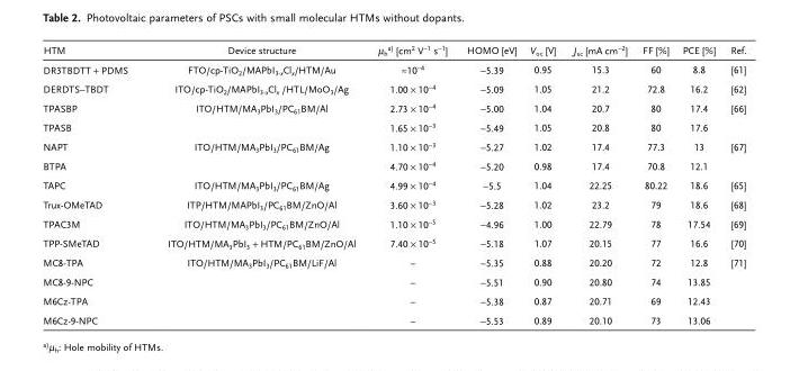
<table><thead><tr><td>HTM</td><td>Device structure</td><td>µ<sub>h</sub>a) [cm<sup>2</sup> V<sup>−1</sup> s<sup>−1</sup>]</td><td>HOMO [eV]</td><td>V<sub>oc</sub> [V]</td><td>J<sub>sc</sub> [mA cm<sup>−2</sup>]</td><td>FF [%]</td><td>PCE [%]</td><td>Ref.</td></tr></thead><tbody><tr><td>DR3TBDTT + PDMS</td><td>FTO/cp-TiO<sub>2</sub>/MAPbI<sub>3-x</sub>Cl<sub>x</sub>/HTM/Au</td><td>≈10<sup>−4</sup></td><td>−5.39</td><td>0.95</td><td>15.3</td><td>60</td><td>8.8</td><td>[61]</td></tr><tr><td>DERDTS–TBDT</td><td>ITO/cp-TiO<sub>2</sub>/MAPbI<sub>3-x</sub>Cl<sub>x</sub> /HTL/MoO<sub>3</sub>/Ag</td><td>1.00 × 10<sup>−4</sup></td><td>−5.09</td><td>1.05</td><td>21.2</td><td>72.8</td><td>16.2</td><td>[62]</td></tr><tr><td>TPASBP</td><td>ITO/HTM/MA<sub>3</sub>PbI<sub>3</sub>/PC<sub>61</sub>BM/Al</td><td>2.73 × 10<sup>−4</sup></td><td>−5.00</td><td>1.04</td><td>20.7</td><td>80</td><td>17.4</td><td>[66]</td></tr><tr><td>TPASB</td><td></td><td>1.65 × 10<sup>−3</sup></td><td>−5.49</td><td>1.05</td><td>20.8</td><td>80</td><td>17.6</td><td></td></tr><tr><td>NAPT</td><td>ITO/HTM/MA<sub>3</sub>PbI<sub>3</sub>/PC<sub>61</sub>BM/Ag</td><td>1.10 × 10<sup>−3</sup></td><td>−5.27</td><td>1.02</td><td>17.4</td><td>77.3</td><td>13</td><td>[67]</td></tr><tr><td>BTPA</td><td></td><td>4.70 × 10<sup>−4</sup></td><td>−5.20</td><td>0.98</td><td>17.4</td><td>70.8</td><td>12.1</td><td></td></tr><tr><td>TAPC</td><td>ITO/HTM/MA<sub>3</sub>PbI<sub>3</sub>/PC<sub>61</sub>BM/Ag</td><td>4.99 × 10<sup>−4</sup></td><td>−5.5</td><td>1.04</td><td>22.25</td><td>80.22</td><td>18.6</td><td>[65]</td></tr><tr><td>Trux-OMeTAD</td><td>ITP/HTM/MAPbI<sub>3</sub>/PC<sub>61</sub>BM/ZnO/Al</td><td>3.60 × 10<sup>−3</sup></td><td>−5.28</td><td>1.02</td><td>23.2</td><td>79</td><td>18.6</td><td>[68]</td></tr><tr><td>TPAC3M</td><td>ITO/HTM/MA<sub>3</sub>PbI<sub>3</sub>/PC<sub>61</sub>BM/ZnO/Al</td><td>1.10 × 10<sup>−5</sup></td><td>−4.96</td><td>1.00</td><td>22.79</td><td>78</td><td>17.54</td><td>[69]</td></tr><tr><td>TPP-SMeTAD</td><td>ITO/HTM/MA<sub>3</sub>PbI<sub>3</sub> + HTM/PC<sub>61</sub>BM/ZnO/Al</td><td>7.40 × 10<sup>−5</sup></td><td>−5.18</td><td>1.07</td><td>20.15</td><td>77</td><td>16.6</td><td>[70]</td></tr><tr><td>MC8-TPA</td><td>ITO/HTM/MA<sub>3</sub>PbI<sub>3</sub>/PC<sub>61</sub>BM/LiF/Al</td><td>–</td><td>−5.35</td><td>0.88</td><td>20.20</td><td>72</td><td>12.8</td><td>[71]</td></tr><tr><td>MC8-9-NPC</td><td></td><td>–</td><td>−5.51</td><td>0.90</td><td>20.80</td><td>74</td><td>13.85</td><td></td></tr><tr><td>M6Cz-TPA</td><td></td><td>–</td><td>−5.38</td><td>0.87</td><td>20.71</td><td>69</td><td>12.43</td><td></td></tr><tr><td>M6Cz-9-NPC</td><td></td><td>–</td><td>−5.53</td><td>0.89</td><td>20.10</td><td>73</td><td>13.06</td><td></td></tr></tbody></table>